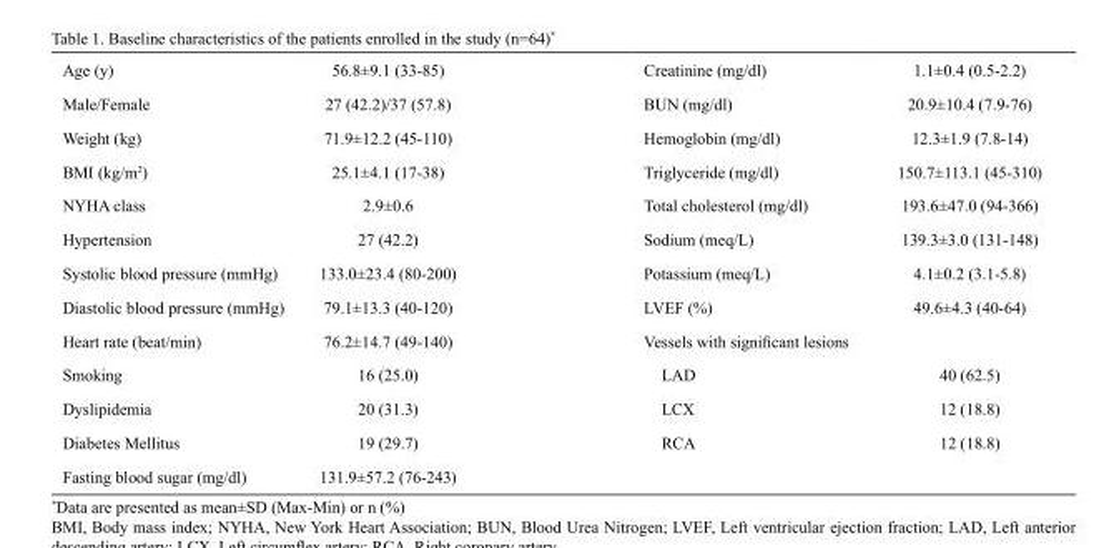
<table><tbody><tr><td>Age (y)</td><td>56.8±9.1 (33-85)</td><td>Creatinine (mg/dl)</td><td>1.1±0.4 (0.5-2.2)</td></tr><tr><td>Male/Female</td><td>27 (42.2)/37 (57.8)</td><td>BUN (mg/dl)</td><td>20.9±10.4 (7.9-76)</td></tr><tr><td>Weight (kg)</td><td>71.9±12.2 (45-110)</td><td>Hemoglobin (mg/dl)</td><td>12.3±1.9 (7.8-14)</td></tr><tr><td>BMI (kg/m<sup>2</sup>)</td><td>25.1±4.1 (17-38)</td><td>Triglyceride (mg/dl)</td><td>150.7±113.1 (45-310)</td></tr><tr><td>NYHA class</td><td>2.9±0.6</td><td>Total cholesterol (mg/dl)</td><td>193.6±47.0 (94-366)</td></tr><tr><td>Hypertension</td><td>27 (42.2)</td><td>Sodium (meq/L)</td><td>139.3±3.0 (131-148)</td></tr><tr><td>Systolic blood pressure (mmHg)</td><td>133.0±23.4 (80-200)</td><td>Potassium (meq/L)</td><td>4.1±0.2 (3.1-5.8)</td></tr><tr><td>Diastolic blood pressure (mmHg)</td><td>79.1±13.3 (40-120)</td><td>LVEF (%)</td><td>49.6±4.3 (40-64)</td></tr><tr><td>Heart rate (beat/min)</td><td>76.2±14.7 (49-140)</td><td>Vessels with significant lesions</td><td></td></tr><tr><td>Smoking</td><td>16 (25.0)</td><td>LAD</td><td>40 (62.5)</td></tr><tr><td>Dyslipidemia</td><td>20 (31.3)</td><td>LCX</td><td>12 (18.8)</td></tr><tr><td>Diabetes Mellitus</td><td>19 (29.7)</td><td>RCA</td><td>12 (18.8)</td></tr><tr><td>Fasting blood sugar (mg/dl)</td><td>131.9±57.2 (76-243)</td><td></td><td></td></tr></tbody></table>